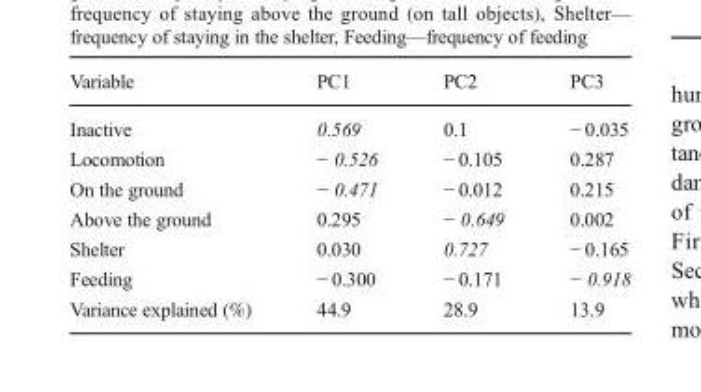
<table><thead><tr><td>Variable</td><td>PC1</td><td>PC2</td><td>PC3</td></tr></thead><tbody><tr><td>Inactive</td><td>0.569</td><td>0.1</td><td>− 0.035</td></tr><tr><td>Locomotion</td><td>− 0.526</td><td>− 0.105</td><td>0.287</td></tr><tr><td>On the ground</td><td>− 0.471</td><td>− 0.012</td><td>0.215</td></tr><tr><td>Above the ground</td><td>0.295</td><td>− 0.649</td><td>0.002</td></tr><tr><td>Shelter</td><td>0.030</td><td>0.727</td><td>− 0.165</td></tr><tr><td>Feeding</td><td>− 0.300</td><td>− 0.171</td><td>− 0.918</td></tr><tr><td>Variance explained (%)</td><td>44.9</td><td>28.9</td><td>13.9</td></tr></tbody></table>